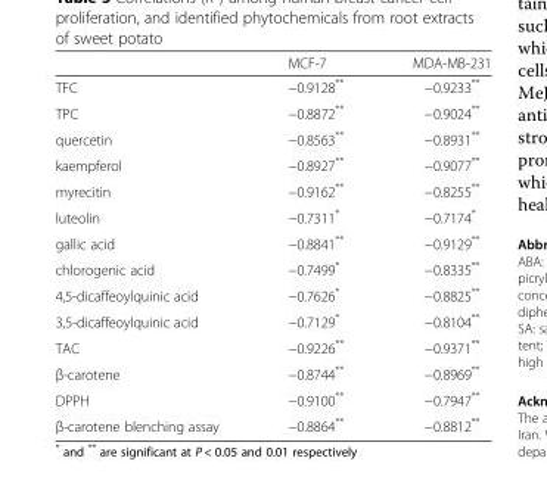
<table><thead><tr><td></td><td>MCF-7</td><td>MDA-MB-231</td></tr></thead><tbody><tr><td>TFC</td><td>−0.9128**</td><td>−0.9233**</td></tr><tr><td>TPC</td><td>−0.8872**</td><td>−0.9024**</td></tr><tr><td>quercetin</td><td>−0.8563**</td><td>−0.8931**</td></tr><tr><td>kaempferol</td><td>−0.8927**</td><td>−0.9077**</td></tr><tr><td>myrecitin</td><td>−0.9162**</td><td>−0.8255**</td></tr><tr><td>luteolin</td><td>−0.7311*</td><td>−0.7174*</td></tr><tr><td>gallic acid</td><td>−0.8841**</td><td>−0.9129**</td></tr><tr><td>chlorogenic acid</td><td>−0.7499*</td><td>−0.8335**</td></tr><tr><td>4,5-dicaffeoylquinic acid</td><td>−0.7626*</td><td>−0.8825**</td></tr><tr><td>3,5-dicaffeoylquinic acid</td><td>−0.7129*</td><td>−0.8104**</td></tr><tr><td>TAC</td><td>−0.9226**</td><td>−0.9371**</td></tr><tr><td>β-carotene</td><td>−0.8744**</td><td>−0.8969**</td></tr><tr><td>DPPH</td><td>−0.9100**</td><td>−0.7947**</td></tr><tr><td>β-carotene blenching assay</td><td>−0.8864**</td><td>−0.8812**</td></tr></tbody></table>